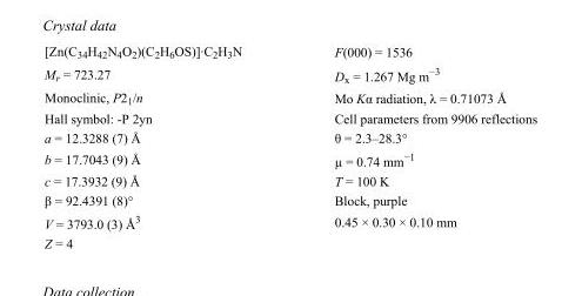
<table><tbody><tr><td>[Zn(C<sub>34</sub>H<sub>42</sub>N<sub>4</sub>O<sub>2</sub>)(C<sub>2</sub>H<sub>6</sub>OS)]·C<sub>2</sub>H<sub>3</sub>N</td><td>F(000) = 1536</td></tr><tr><td>M<sub>r</sub> = 723.27</td><td>D<sub>x</sub> = 1.267 Mg m<sup>−3</sup></td></tr><tr><td>Monoclinic, P2<sub>1</sub>/n</td><td>Mo Kα radiation, λ = 0.71073 Å</td></tr><tr><td>Hall symbol: -P 2yn</td><td>Cell parameters from 9906 reflections</td></tr><tr><td>a = 12.3288 (7) Å</td><td>θ = 2.3–28.3°</td></tr><tr><td>b = 17.7043 (9) Å</td><td>µ = 0.74 mm<sup>−1</sup></td></tr><tr><td>c = 17.3932 (9) Å</td><td>T = 100 K</td></tr><tr><td>β = 92.4391 (8)°</td><td>Block, purple</td></tr><tr><td>V = 3793.0 (3) Å<sup>3</sup></td><td>0.45 × 0.30 × 0.10 mm</td></tr><tr><td>Z = 4</td><td></td></tr></tbody></table>